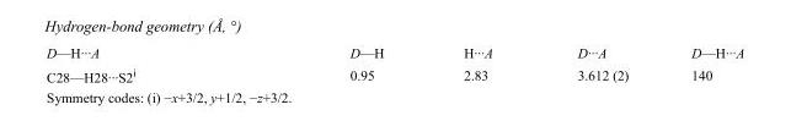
<table><tbody><tr><td>D—H···A</td><td>D—H</td><td>H···A</td><td>D···A</td><td>D—H···A</td></tr><tr><td>C28—H28···S2<sup>i</sup></td><td>0.95</td><td>2.83</td><td>3.612 (2)</td><td>140</td></tr></tbody></table>